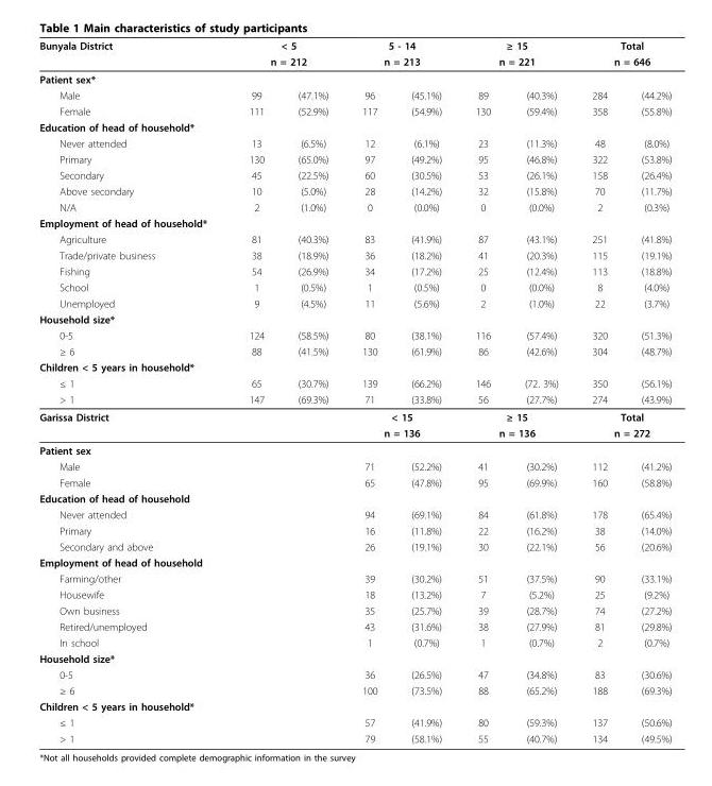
<table><thead><tr><td rowspan="3">Bunyala District Patient sex*</td><td rowspan="2" colspan="2">&lt; 5 n = 212</td><td rowspan="2" colspan="2">5 - 14 n = 213</td><td rowspan="2" colspan="2">≥ 15 n = 221</td><td rowspan="2" colspan="2">Total n = 646</td></tr><tr></tr><tr><td></td><td></td><td></td><td></td><td></td><td></td><td></td><td></td></tr></thead><tbody><tr><td>Male</td><td>99</td><td>(47.1%)</td><td>96</td><td>(45.1%)</td><td>89</td><td>(40.3%)</td><td>284</td><td>(44.2%)</td></tr><tr><td>Female</td><td>111</td><td>(52.9%)</td><td>117</td><td>(54.9%)</td><td>130</td><td>(59.4%)</td><td>358</td><td>(55.8%)</td></tr><tr><td colspan="9">Education of head of household*</td></tr><tr><td>Never attended</td><td>13</td><td>(6.5%)</td><td>12</td><td>(6.1%)</td><td>23</td><td>(11.3%)</td><td>48</td><td>(8.0%)</td></tr><tr><td>Primary</td><td>130</td><td>(65.0%)</td><td>97</td><td>(49.2%)</td><td>95</td><td>(46.8%)</td><td>322</td><td>(53.8%)</td></tr><tr><td>Secondary</td><td>45</td><td>(22.5%)</td><td>60</td><td>(30.5%)</td><td>53</td><td>(26.1%)</td><td>158</td><td>(26.4%)</td></tr><tr><td>Above secondary</td><td>10</td><td>(5.0%)</td><td>28</td><td>(14.2%)</td><td>32</td><td>(15.8%)</td><td>70</td><td>(11.7%)</td></tr><tr><td>N/A</td><td>2</td><td>(1.0%)</td><td>0</td><td>(0.0%)</td><td>0</td><td>(0.0%)</td><td>2</td><td>(0.3%)</td></tr><tr><td colspan="9">Employment of head of household*</td></tr><tr><td>Agriculture</td><td>81</td><td>(40.3%)</td><td>83</td><td>(41.9%)</td><td>87</td><td>(43.1%)</td><td>251</td><td>(41.8%)</td></tr><tr><td>Trade/private business</td><td>38</td><td>(18.9%)</td><td>36</td><td>(18.2%)</td><td>41</td><td>(20.3%)</td><td>115</td><td>(19.1%)</td></tr><tr><td>Fishing</td><td>54</td><td>(26.9%)</td><td>34</td><td>(17.2%)</td><td>25</td><td>(12.4%)</td><td>113</td><td>(18.8%)</td></tr><tr><td>School</td><td>1</td><td>(0.5%)</td><td>1</td><td>(0.5%)</td><td>0</td><td>(0.0%)</td><td>8</td><td>(4.0%)</td></tr><tr><td>Unemployed</td><td>9</td><td>(4.5%)</td><td>11</td><td>(5.6%)</td><td>2</td><td>(1.0%)</td><td>22</td><td>(3.7%)</td></tr><tr><td colspan="9">Household size*</td></tr><tr><td>0-5</td><td>124</td><td>(58.5%)</td><td>80</td><td>(38.1%)</td><td>116</td><td>(57.4%)</td><td>320</td><td>(51.3%)</td></tr><tr><td>≥ 6</td><td>88</td><td>(41.5%)</td><td>130</td><td>(61.9%)</td><td>86</td><td>(42.6%)</td><td>304</td><td>(48.7%)</td></tr><tr><td colspan="9">Children &lt; 5 years in household*</td></tr><tr><td>≤ 1</td><td>65</td><td>(30.7%)</td><td>139</td><td>(66.2%)</td><td>146</td><td>(72. 3%)</td><td>350</td><td>(56.1%)</td></tr><tr><td>&gt; 1</td><td>147</td><td>(69.3%)</td><td>71</td><td>(33.8%)</td><td>56</td><td>(27.7%)</td><td>274</td><td>(43.9%)</td></tr><tr><td rowspan="2">Garissa District</td><td></td><td></td><td colspan="2">&lt; 15</td><td colspan="2">≥ 15</td><td colspan="2">Total</td></tr><tr><td></td><td></td><td colspan="2">n = 136</td><td colspan="2">n = 136</td><td colspan="2">n = 272</td></tr><tr><td colspan="9">Patient sex</td></tr><tr><td>Male</td><td></td><td></td><td>71</td><td>(52.2%)</td><td>41</td><td>(30.2%)</td><td>112</td><td>(41.2%)</td></tr><tr><td>Female</td><td></td><td></td><td>65</td><td>(47.8%)</td><td>95</td><td>(69.9%)</td><td>160</td><td>(58.8%)</td></tr><tr><td colspan="9">Education of head of household</td></tr><tr><td>Never attended</td><td></td><td></td><td>94</td><td>(69.1%)</td><td>84</td><td>(61.8%)</td><td>178</td><td>(65.4%)</td></tr><tr><td>Primary</td><td></td><td></td><td>16</td><td>(11.8%)</td><td>22</td><td>(16.2%)</td><td>38</td><td>(14.0%)</td></tr><tr><td>Secondary and above</td><td></td><td></td><td>26</td><td>(19.1%)</td><td>30</td><td>(22.1%)</td><td>56</td><td>(20.6%)</td></tr><tr><td colspan="9">Employment of head of household</td></tr><tr><td>Farming/other</td><td></td><td></td><td>39</td><td>(30.2%)</td><td>51</td><td>(37.5%)</td><td>90</td><td>(33.1%)</td></tr><tr><td>Housewife</td><td></td><td></td><td>18</td><td>(13.2%)</td><td>7</td><td>(5.2%)</td><td>25</td><td>(9.2%)</td></tr><tr><td>Own business</td><td></td><td></td><td>35</td><td>(25.7%)</td><td>39</td><td>(28.7%)</td><td>74</td><td>(27.2%)</td></tr><tr><td>Retired/unemployed</td><td></td><td></td><td>43</td><td>(31.6%)</td><td>38</td><td>(27.9%)</td><td>81</td><td>(29.8%)</td></tr><tr><td>In school</td><td></td><td></td><td>1</td><td>(0.7%)</td><td>1</td><td>(0.7%)</td><td>2</td><td>(0.7%)</td></tr><tr><td colspan="9">Household size*</td></tr><tr><td>0-5</td><td></td><td></td><td>36</td><td>(26.5%)</td><td>47</td><td>(34.8%)</td><td>83</td><td>(30.6%)</td></tr><tr><td>≥ 6</td><td></td><td></td><td>100</td><td>(73.5%)</td><td>88</td><td>(65.2%)</td><td>188</td><td>(69.3%)</td></tr><tr><td colspan="9">Children &lt; 5 years in household*</td></tr><tr><td>≤ 1</td><td></td><td></td><td>57</td><td>(41.9%)</td><td>80</td><td>(59.3%)</td><td>137</td><td>(50.6%)</td></tr><tr><td>&gt; 1</td><td></td><td></td><td>79</td><td>(58.1%)</td><td>55</td><td>(40.7%)</td><td>134</td><td>(49.5%)</td></tr></tbody></table>